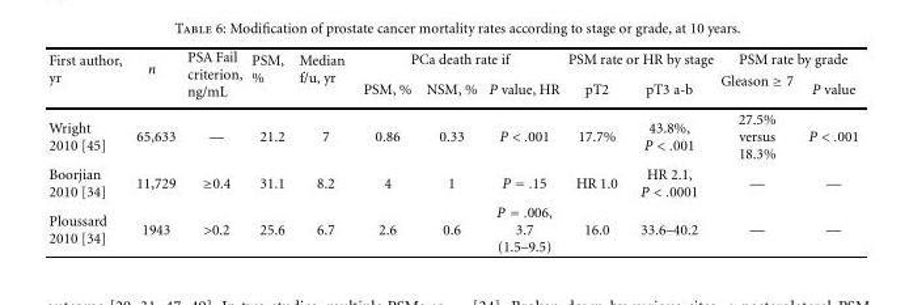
<table><thead><tr><td rowspan="2">First author, yr</td><td rowspan="2">n</td><td rowspan="2">PSA Fail criterion, ng/mL</td><td rowspan="2">PSM, %</td><td rowspan="2">Median f/u, yr</td><td colspan="3">PCa death rate if</td><td colspan="2">PSM rate or HR by stage</td><td colspan="2">PSM rate by grade</td></tr><tr><td>PSM, %</td><td>NSM, %</td><td>P value, HR</td><td>pT2</td><td>pT3 a-b</td><td>Gleason ≥ 7</td><td>P value</td></tr></thead><tbody><tr><td>Wright 2010 [45]</td><td>65,633</td><td>—</td><td>21.2</td><td>7</td><td>0.86</td><td>0.33</td><td>P &lt; .001</td><td>17.7%</td><td>43.8%, P &lt; .001</td><td>27.5% versus 18.3%</td><td>P &lt; .001</td></tr><tr><td>Boorjian 2010 [34]</td><td>11,729</td><td>≥0.4</td><td>31.1</td><td>8.2</td><td>4</td><td>1</td><td>P = .15</td><td>HR 1.0</td><td>HR 2.1, P &lt; .0001</td><td>—</td><td>—</td></tr><tr><td>Ploussard 2010 [34]</td><td>1943</td><td>&gt;0.2</td><td>25.6</td><td>6.7</td><td>2.6</td><td>0.6</td><td>P = .006, 3.7 (1.5–9.5)</td><td>16.0</td><td>33.6–40.2</td><td>—</td><td>—</td></tr></tbody></table>